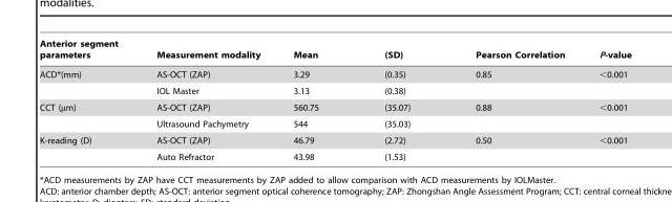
<table><thead><tr><td>Anterior segment parameters</td><td>Measurement modality</td><td>Mean</td><td>(SD)</td><td>Pearson Correlation</td><td>P-value</td></tr></thead><tbody><tr><td rowspan="2">ACD*(mm)</td><td>AS-OCT (ZAP)</td><td>3.29</td><td>(0.35)</td><td>0.85</td><td>&lt;0.001</td></tr><tr><td>IOL Master</td><td>3.13</td><td>(0.38)</td><td></td><td></td></tr><tr><td rowspan="2">CCT (µm)</td><td>AS-OCT (ZAP)</td><td>560.75</td><td>(35.07)</td><td>0.88</td><td>&lt;0.001</td></tr><tr><td>Ultrasound Pachymetry</td><td>544</td><td>(35.03)</td><td></td><td></td></tr><tr><td rowspan="2">K-reading (D)</td><td>AS-OCT (ZAP)</td><td>46.79</td><td>(2.72)</td><td>0.50</td><td>&lt;0.001</td></tr><tr><td>Auto Refractor</td><td>43.98</td><td>(1.53)</td><td></td><td></td></tr></tbody></table>